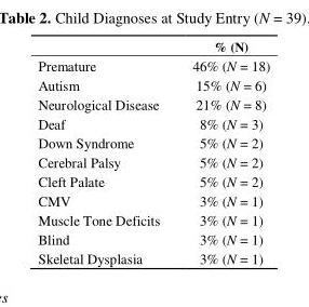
<table><thead><tr><td></td><td>% (N)</td></tr></thead><tbody><tr><td>Premature</td><td>46% (N = 18)</td></tr><tr><td>Autism</td><td>15% (N = 6)</td></tr><tr><td>Neurological Disease</td><td>21% (N = 8)</td></tr><tr><td>Deaf</td><td>8% (N = 3)</td></tr><tr><td>Down Syndrome</td><td>5% (N = 2)</td></tr><tr><td>Cerebral Palsy</td><td>5% (N = 2)</td></tr><tr><td>Cleft Palate</td><td>5% (N = 2)</td></tr><tr><td>CMV</td><td>3% (N = 1)</td></tr><tr><td>Muscle Tone Deficits</td><td>3% (N = 1)</td></tr><tr><td>Blind</td><td>3% (N = 1)</td></tr><tr><td>Skeletal Dysplasia</td><td>3% (N = 1)</td></tr></tbody></table>